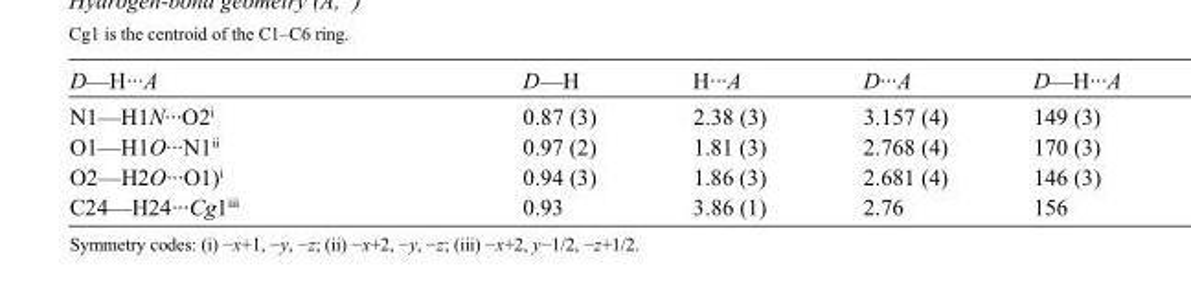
<table><tbody><tr><td>D—H···A</td><td>D—H</td><td>H···A</td><td>D···A</td><td>D—H···A</td></tr><tr><td>N1—H1N···O2<sup>i</sup></td><td>0.87 (3)</td><td>2.38 (3)</td><td>3.157 (4)</td><td>149 (3)</td></tr><tr><td>O1—H1O···N1<sup>ii</sup></td><td>0.97 (2)</td><td>1.81 (3)</td><td>2.768 (4)</td><td>170 (3)</td></tr><tr><td>O2—H2O···O1)<sup>i</sup></td><td>0.94 (3)</td><td>1.86 (3)</td><td>2.681 (4)</td><td>146 (3)</td></tr><tr><td>C24—H24···Cg1<sup>iii</sup></td><td>0.93</td><td>3.86 (1)</td><td>2.76</td><td>156</td></tr></tbody></table>